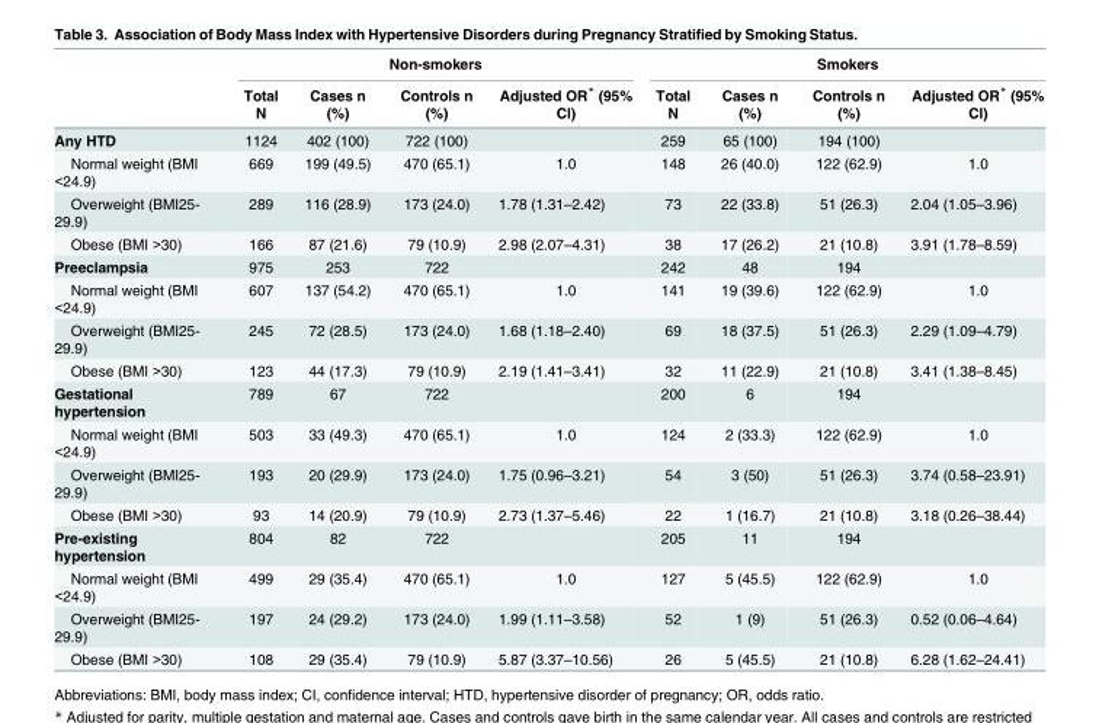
<table><thead><tr><td rowspan="2"></td><td colspan="4">Non-smokers</td><td colspan="4">Smokers</td></tr><tr><td>Total N</td><td>Cases n (%)</td><td>Controls n (%)</td><td>Adjusted OR* (95% Cl)</td><td>Total N</td><td>Cases n (%)</td><td>Controls n (%)</td><td>Adjusted OR* (95% Cl)</td></tr></thead><tbody><tr><td>Any HTD</td><td>1124</td><td>402 (100)</td><td>722 (100)</td><td></td><td>259</td><td>65 (100)</td><td>194 (100)</td><td></td></tr><tr><td>Normal weight (BMI &lt;24.9)</td><td>669</td><td>199 (49.5)</td><td>470 (65.1)</td><td>1.0</td><td>148</td><td>26 (40.0)</td><td>122 (62.9)</td><td>1.0</td></tr><tr><td>Overweight (BMI25- 29.9)</td><td>289</td><td>116 (28.9)</td><td>173 (24.0)</td><td>1.78 (1.31–2.42)</td><td>73</td><td>22 (33.8)</td><td>51 (26.3)</td><td>2.04 (1.05–3.96)</td></tr><tr><td>Obese (BMI &gt;30)</td><td>166</td><td>87 (21.6)</td><td>79 (10.9)</td><td>2.98 (2.07–4.31)</td><td>38</td><td>17 (26.2)</td><td>21 (10.8)</td><td>3.91 (1.78–8.59)</td></tr><tr><td>Preeclampsia</td><td>975</td><td>253</td><td>722</td><td></td><td>242</td><td>48</td><td>194</td><td></td></tr><tr><td>Normal weight (BMI &lt;24.9)</td><td>607</td><td>137 (54.2)</td><td>470 (65.1)</td><td>1.0</td><td>141</td><td>19 (39.6)</td><td>122 (62.9)</td><td>1.0</td></tr><tr><td>Overweight (BMI25- 29.9)</td><td>245</td><td>72 (28.5)</td><td>173 (24.0)</td><td>1.68 (1.18–2.40)</td><td>69</td><td>18 (37.5)</td><td>51 (26.3)</td><td>2.29 (1.09–4.79)</td></tr><tr><td>Obese (BMI &gt;30)</td><td>123</td><td>44 (17.3)</td><td>79 (10.9)</td><td>2.19 (1.41–3.41)</td><td>32</td><td>11 (22.9)</td><td>21 (10.8)</td><td>3.41 (1.38–8.45)</td></tr><tr><td>Gestational hypertension</td><td>789</td><td>67</td><td>722</td><td></td><td>200</td><td>6</td><td>194</td><td></td></tr><tr><td>Normal weight (BMI &lt;24.9)</td><td>503</td><td>33 (49.3)</td><td>470 (65.1)</td><td>1.0</td><td>124</td><td>2 (33.3)</td><td>122 (62.9)</td><td>1.0</td></tr><tr><td>Overweight (BMI25- 29.9)</td><td>193</td><td>20 (29.9)</td><td>173 (24.0)</td><td>1.75 (0.96–3.21)</td><td>54</td><td>3 (50)</td><td>51 (26.3)</td><td>3.74 (0.58–23.91)</td></tr><tr><td>Obese (BMI &gt;30)</td><td>93</td><td>14 (20.9)</td><td>79 (10.9)</td><td>2.73 (1.37–5.46)</td><td>22</td><td>1 (16.7)</td><td>21 (10.8)</td><td>3.18 (0.26–38.44)</td></tr><tr><td>Pre-existing hypertension</td><td>804</td><td>82</td><td>722</td><td></td><td>205</td><td>11</td><td>194</td><td></td></tr><tr><td>Normal weight (BMI &lt;24.9)</td><td>499</td><td>29 (35.4)</td><td>470 (65.1)</td><td>1.0</td><td>127</td><td>5 (45.5)</td><td>122 (62.9)</td><td>1.0</td></tr><tr><td>Overweight (BMI25- 29.9)</td><td>197</td><td>24 (29.2)</td><td>173 (24.0)</td><td>1.99 (1.11–3.58)</td><td>52</td><td>1 (9)</td><td>51 (26.3)</td><td>0.52 (0.06–4.64)</td></tr><tr><td>Obese (BMI &gt;30)</td><td>108</td><td>29 (35.4)</td><td>79 (10.9)</td><td>5.87 (3.37–10.56)</td><td>26</td><td>5 (45.5)</td><td>21 (10.8)</td><td>6.28 (1.62–24.41)</td></tr></tbody></table>